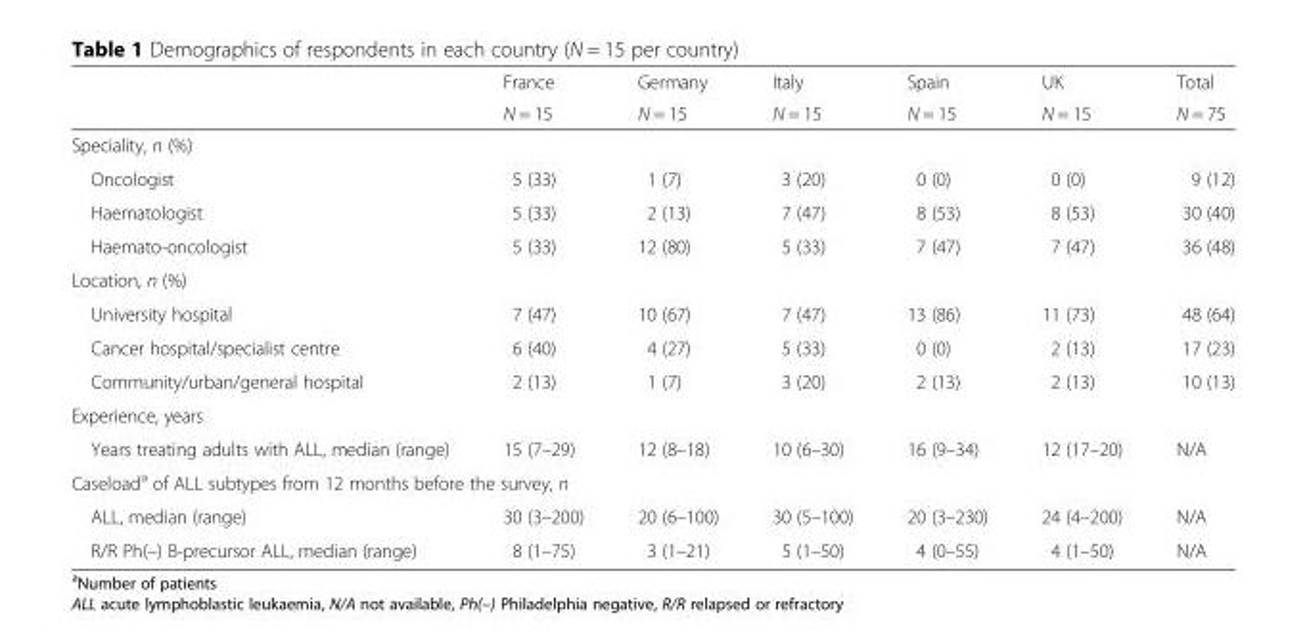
<table><thead><tr><td rowspan="2"></td><td rowspan="2">France N = 15</td><td rowspan="2">Germany N = 15</td><td rowspan="2">Italy N = 15</td><td rowspan="2">Spain N = 15</td><td rowspan="2">UK N = 15</td><td rowspan="2">Total N = 75</td></tr><tr></tr></thead><tbody><tr><td colspan="7">Speciality, n (%)</td></tr><tr><td>Oncologist</td><td>5 (33)</td><td>1 (7)</td><td>3 (20)</td><td>0 (0)</td><td>0 (0)</td><td>9 (12)</td></tr><tr><td>Haematologist</td><td>5 (33)</td><td>2 (13)</td><td>7 (47)</td><td>8 (53)</td><td>8 (53)</td><td>30 (40)</td></tr><tr><td>Haemato-oncologist</td><td>5 (33)</td><td>12 (80)</td><td>5 (33)</td><td>7 (47)</td><td>7 (47)</td><td>36 (48)</td></tr><tr><td colspan="7">Location, n (%)</td></tr><tr><td>University hospital</td><td>7 (47)</td><td>10 (67)</td><td>7 (47)</td><td>13 (86)</td><td>11 (73)</td><td>48 (64)</td></tr><tr><td>Cancer hospital/specialist centre</td><td>6 (40)</td><td>4 (27)</td><td>5 (33)</td><td>0 (0)</td><td>2 (13)</td><td>17 (23)</td></tr><tr><td>Community/urban/general hospital</td><td>2 (13)</td><td>1 (7)</td><td>3 (20)</td><td>2 (13)</td><td>2 (13)</td><td>10 (13)</td></tr><tr><td colspan="7">Experience, years</td></tr><tr><td>Years treating adults with ALL, median (range)</td><td>15 (7–29)</td><td>12 (8–18)</td><td>10 (6–30)</td><td>16 (9–34)</td><td>12 (17–20)</td><td>N/A</td></tr><tr><td colspan="7">Caseload<sup>a</sup> of ALL subtypes from 12 months before the survey, n</td></tr><tr><td>ALL, median (range)</td><td>30 (3–200)</td><td>20 (6–100)</td><td>30 (5–100)</td><td>20 (3–230)</td><td>24 (4–200)</td><td>N/A</td></tr><tr><td>R/R Ph(–) B-precursor ALL, median (range)</td><td>8 (1–75)</td><td>3 (1–21)</td><td>5 (1–50)</td><td>4 (0–55)</td><td>4 (1–50)</td><td>N/A</td></tr></tbody></table>